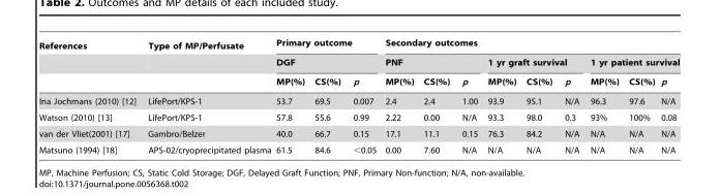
<table><thead><tr><td rowspan="3">References</td><td rowspan="3">Type of MP/Perfusate</td><td rowspan="2" colspan="3">Primary outcome DGF</td><td colspan="9">Secondary outcomes</td></tr><tr><td colspan="3">PNF</td><td colspan="3">1 yr graft survival</td><td colspan="3">1 yr patient survival</td></tr><tr><td>MP(%)</td><td>CS(%)</td><td>p</td><td>MP(%)</td><td>CS(%)</td><td>p</td><td>MP(%)</td><td>CS(%)</td><td>p</td><td>MP(%)</td><td>CS(%)</td><td>p</td></tr></thead><tbody><tr><td>Ina Jochmans (2010) [12]</td><td>LifePort/KPS-1</td><td>53.7</td><td>69.5</td><td>0.007</td><td>2.4</td><td>2.4</td><td>1.00</td><td>93.9</td><td>95.1</td><td>N/A</td><td>96.3</td><td>97.6</td><td>N/A</td></tr><tr><td>Watson (2010) [13]</td><td>LifePort/KPS-1</td><td>57.8</td><td>55.6</td><td>0.99</td><td>2.22</td><td>0.00</td><td>N/A</td><td>93.3</td><td>98.0</td><td>0.3</td><td>93%</td><td>100%</td><td>0.08</td></tr><tr><td>van der Vliet(2001) [17]</td><td>Gambro/Belzer</td><td>40.0</td><td>66.7</td><td>0.15</td><td>17.1</td><td>11.1</td><td>0.15</td><td>76.3</td><td>84.2</td><td>N/A</td><td>N/A</td><td>N/A</td><td>N/A</td></tr><tr><td>Matsuno (1994) [18]</td><td>APS-02/cryoprecipitated plasma</td><td>61.5</td><td>84.6</td><td>&lt;0.05</td><td>0.00</td><td>7.60</td><td>N/A</td><td>N/A</td><td>N/A</td><td>N/A</td><td>N/A</td><td>N/A</td><td>N/A</td></tr></tbody></table>